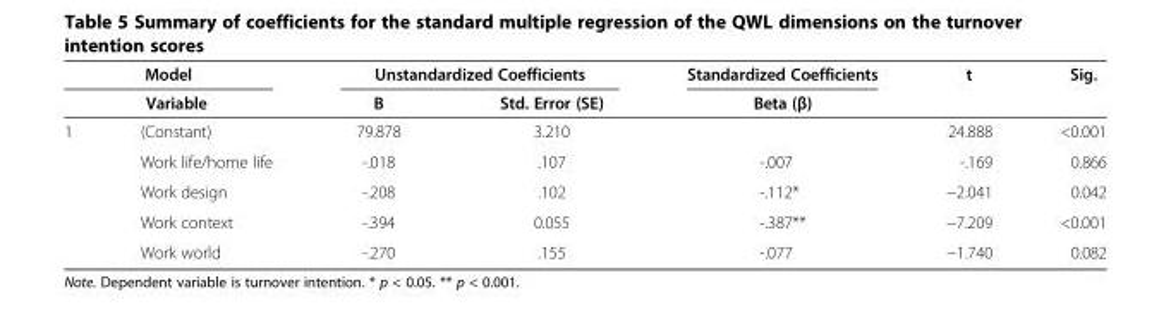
<table><thead><tr><td rowspan="2"></td><td rowspan="2">Model Variable</td><td colspan="2">Unstandardized Coefficients</td><td rowspan="2">Standardized Coefficients Beta (β)</td><td rowspan="2">t</td><td rowspan="2">Sig.</td></tr><tr><td>B</td><td>Std. Error (SE)</td></tr></thead><tbody><tr><td rowspan="5">1</td><td>(Constant)</td><td>79.878</td><td>3.210</td><td></td><td>24.888</td><td>&lt;0.001</td></tr><tr><td>Work life/home life</td><td>-.018</td><td>.107</td><td>-.007</td><td>-.169</td><td>0.866</td></tr><tr><td>Work design</td><td>-.208</td><td>.102</td><td>-.112*</td><td>−2.041</td><td>0.042</td></tr><tr><td>Work context</td><td>-.394</td><td>0.055</td><td>-.387**</td><td>−7.209</td><td>&lt;0.001</td></tr><tr><td>Work world</td><td>-.270</td><td>.155</td><td>-.077</td><td>−1.740</td><td>0.082</td></tr></tbody></table>